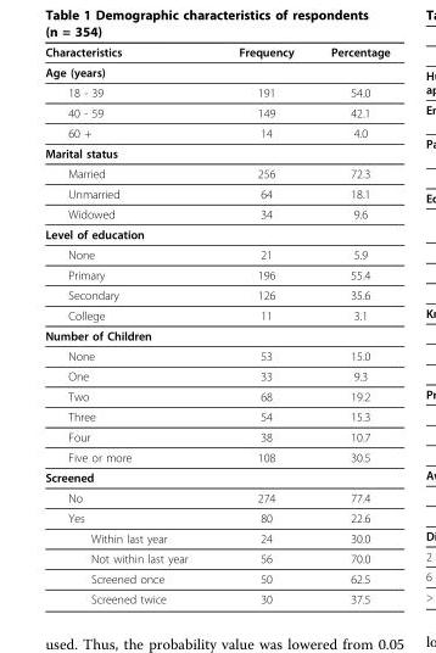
<table><thead><tr><td>Characteristics</td><td>Frequency</td><td>Percentage</td></tr></thead><tbody><tr><td colspan="3">Age (years)</td></tr><tr><td>18 - 39</td><td>191</td><td>54.0</td></tr><tr><td>40 - 59</td><td>149</td><td>42.1</td></tr><tr><td>60 +</td><td>14</td><td>4.0</td></tr><tr><td colspan="3">Marital status</td></tr><tr><td>Married</td><td>256</td><td>72.3</td></tr><tr><td>Unmarried</td><td>64</td><td>18.1</td></tr><tr><td>Widowed</td><td>34</td><td>9.6</td></tr><tr><td colspan="3">Level of education</td></tr><tr><td>None</td><td>21</td><td>5.9</td></tr><tr><td>Primary</td><td>196</td><td>55.4</td></tr><tr><td>Secondary</td><td>126</td><td>35.6</td></tr><tr><td>College</td><td>11</td><td>3.1</td></tr><tr><td colspan="3">Number of Children</td></tr><tr><td>None</td><td>53</td><td>15.0</td></tr><tr><td>One</td><td>33</td><td>9.3</td></tr><tr><td>Two</td><td>68</td><td>19.2</td></tr><tr><td>Three</td><td>54</td><td>15.3</td></tr><tr><td>Four</td><td>38</td><td>10.7</td></tr><tr><td>Five or more</td><td>108</td><td>30.5</td></tr><tr><td colspan="3">Screened</td></tr><tr><td>No</td><td>274</td><td>77.4</td></tr><tr><td>Yes</td><td>80</td><td>22.6</td></tr><tr><td>Within last year</td><td>24</td><td>30.0</td></tr><tr><td>Not within last year</td><td>56</td><td>70.0</td></tr><tr><td>Screened once</td><td>50</td><td>62.5</td></tr><tr><td>Screened twice</td><td>30</td><td>37.5</td></tr></tbody></table>